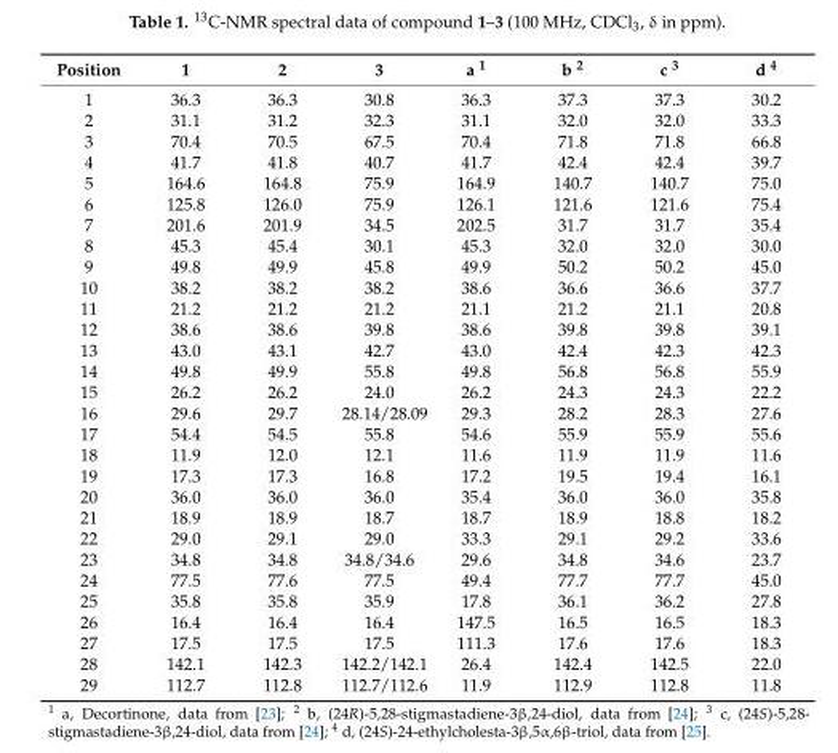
<table><thead><tr><td>Position</td><td>1</td><td>2</td><td>3</td><td>a <sup>1</sup></td><td>b <sup>2</sup></td><td>c <sup>3</sup></td><td>d <sup>4</sup></td></tr></thead><tbody><tr><td>1</td><td>36.3</td><td>36.3</td><td>30.8</td><td>36.3</td><td>37.3</td><td>37.3</td><td>30.2</td></tr><tr><td>2</td><td>31.1</td><td>31.2</td><td>32.3</td><td>31.1</td><td>32.0</td><td>32.0</td><td>33.3</td></tr><tr><td>3</td><td>70.4</td><td>70.5</td><td>67.5</td><td>70.4</td><td>71.8</td><td>71.8</td><td>66.8</td></tr><tr><td>4</td><td>41.7</td><td>41.8</td><td>40.7</td><td>41.7</td><td>42.4</td><td>42.4</td><td>39.7</td></tr><tr><td>5</td><td>164.6</td><td>164.8</td><td>75.9</td><td>164.9</td><td>140.7</td><td>140.7</td><td>75.0</td></tr><tr><td>6</td><td>125.8</td><td>126.0</td><td>75.9</td><td>126.1</td><td>121.6</td><td>121.6</td><td>75.4</td></tr><tr><td>7</td><td>201.6</td><td>201.9</td><td>34.5</td><td>202.5</td><td>31.7</td><td>31.7</td><td>35.4</td></tr><tr><td>8</td><td>45.3</td><td>45.4</td><td>30.1</td><td>45.3</td><td>32.0</td><td>32.0</td><td>30.0</td></tr><tr><td>9</td><td>49.8</td><td>49.9</td><td>45.8</td><td>49.9</td><td>50.2</td><td>50.2</td><td>45.0</td></tr><tr><td>10</td><td>38.2</td><td>38.2</td><td>38.2</td><td>38.6</td><td>36.6</td><td>36.6</td><td>37.7</td></tr><tr><td>11</td><td>21.2</td><td>21.2</td><td>21.2</td><td>21.1</td><td>21.2</td><td>21.1</td><td>20.8</td></tr><tr><td>12</td><td>38.6</td><td>38.6</td><td>39.8</td><td>38.6</td><td>39.8</td><td>39.8</td><td>39.1</td></tr><tr><td>13</td><td>43.0</td><td>43.1</td><td>42.7</td><td>43.0</td><td>42.4</td><td>42.3</td><td>42.3</td></tr><tr><td>14</td><td>49.8</td><td>49.9</td><td>55.8</td><td>49.8</td><td>56.8</td><td>56.8</td><td>55.9</td></tr><tr><td>15</td><td>26.2</td><td>26.2</td><td>24.0</td><td>26.2</td><td>24.3</td><td>24.3</td><td>22.2</td></tr><tr><td>16</td><td>29.6</td><td>29.7</td><td>28.14/28.09</td><td>29.3</td><td>28.2</td><td>28.3</td><td>27.6</td></tr><tr><td>17</td><td>54.4</td><td>54.5</td><td>55.8</td><td>54.6</td><td>55.9</td><td>55.9</td><td>55.6</td></tr><tr><td>18</td><td>11.9</td><td>12.0</td><td>12.1</td><td>11.6</td><td>11.9</td><td>11.9</td><td>11.6</td></tr><tr><td>19</td><td>17.3</td><td>17.3</td><td>16.8</td><td>17.2</td><td>19.5</td><td>19.4</td><td>16.1</td></tr><tr><td>20</td><td>36.0</td><td>36.0</td><td>36.0</td><td>35.4</td><td>36.0</td><td>36.0</td><td>35.8</td></tr><tr><td>21</td><td>18.9</td><td>18.9</td><td>18.7</td><td>18.7</td><td>18.9</td><td>18.8</td><td>18.2</td></tr><tr><td>22</td><td>29.0</td><td>29.1</td><td>29.0</td><td>33.3</td><td>29.1</td><td>29.2</td><td>33.6</td></tr><tr><td>23</td><td>34.8</td><td>34.8</td><td>34.8/34.6</td><td>29.6</td><td>34.8</td><td>34.6</td><td>23.7</td></tr><tr><td>24</td><td>77.5</td><td>77.6</td><td>77.5</td><td>49.4</td><td>77.7</td><td>77.7</td><td>45.0</td></tr><tr><td>25</td><td>35.8</td><td>35.8</td><td>35.9</td><td>17.8</td><td>36.1</td><td>36.2</td><td>27.8</td></tr><tr><td>26</td><td>16.4</td><td>16.4</td><td>16.4</td><td>147.5</td><td>16.5</td><td>16.5</td><td>18.3</td></tr><tr><td>27</td><td>17.5</td><td>17.5</td><td>17.5</td><td>111.3</td><td>17.6</td><td>17.6</td><td>18.3</td></tr><tr><td>28</td><td>142.1</td><td>142.3</td><td>142.2/142.1</td><td>26.4</td><td>142.4</td><td>142.5</td><td>22.0</td></tr><tr><td>29</td><td>112.7</td><td>112.8</td><td>112.7/112.6</td><td>11.9</td><td>112.9</td><td>112.8</td><td>11.8</td></tr></tbody></table>